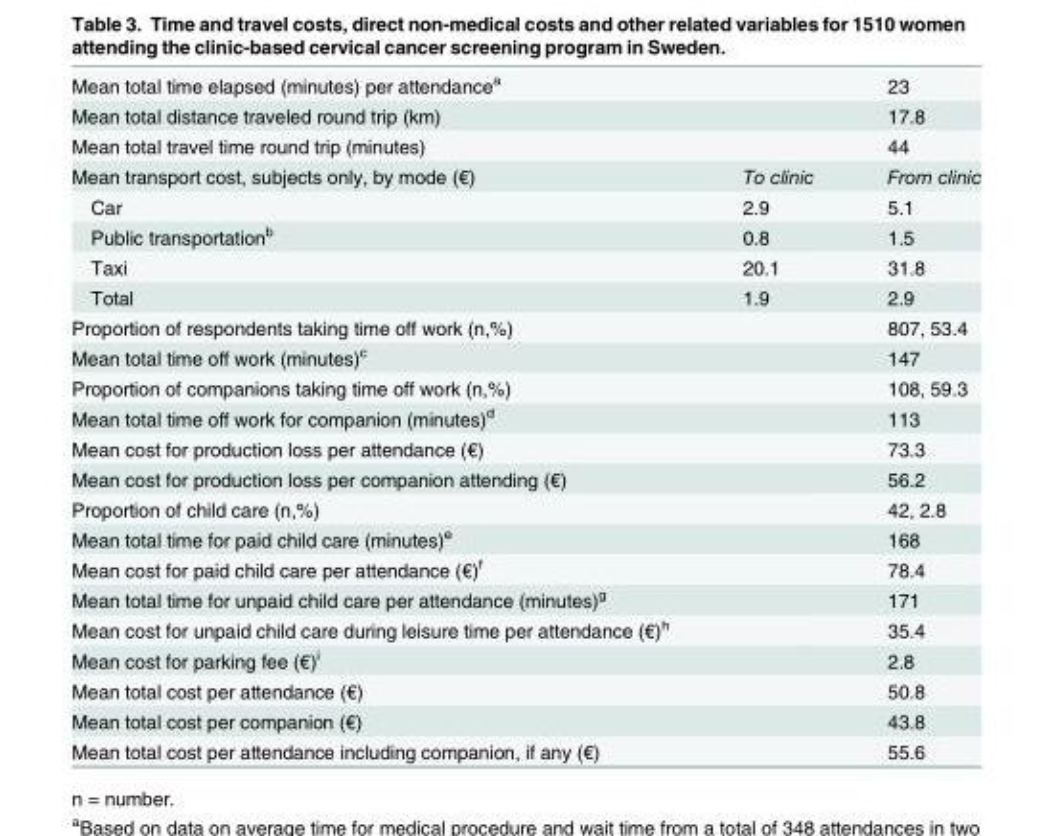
<table><tbody><tr><td>Mean total time elapsed (minutes) per attendance<sup>a</sup></td><td></td><td>23</td></tr><tr><td>Mean total distance traveled round trip (km)</td><td></td><td>17.8</td></tr><tr><td>Mean total travel time round trip (minutes)</td><td></td><td>44</td></tr><tr><td>Mean transport cost, subjects only, by mode (€)</td><td>To clinic</td><td>From clinic</td></tr><tr><td>Car</td><td>2.9</td><td>5.1</td></tr><tr><td>Public transportation<sup>b</sup></td><td>0.8</td><td>1.5</td></tr><tr><td>Taxi</td><td>20.1</td><td>31.8</td></tr><tr><td>Total</td><td>1.9</td><td>2.9</td></tr><tr><td>Proportion of respondents taking time off work (n,%)</td><td></td><td>807, 53.4</td></tr><tr><td>Mean total time off work (minutes)<sup>c</sup></td><td></td><td>147</td></tr><tr><td>Proportion of companions taking time off work (n,%)</td><td></td><td>108, 59.3</td></tr><tr><td>Mean total time off work for companion (minutes)<sup>d</sup></td><td></td><td>113</td></tr><tr><td>Mean cost for production loss per attendance (€)</td><td></td><td>73.3</td></tr><tr><td>Mean cost for production loss per companion attending (€)</td><td></td><td>56.2</td></tr><tr><td>Proportion of child care (n,%)</td><td></td><td>42, 2.8</td></tr><tr><td>Mean total time for paid child care (minutes)<sup>e</sup></td><td></td><td>168</td></tr><tr><td>Mean cost for paid child care per attendance (€)<sup>f</sup></td><td></td><td>78.4</td></tr><tr><td>Mean total time for unpaid child care per attendance (minutes)<sup>g</sup></td><td></td><td>171</td></tr><tr><td>Mean cost for unpaid child care during leisure time per attendance (€)<sup>h</sup></td><td></td><td>35.4</td></tr><tr><td>Mean cost for parking fee (€)<sup>i</sup></td><td></td><td>2.8</td></tr><tr><td>Mean total cost per attendance (€)</td><td></td><td>50.8</td></tr><tr><td>Mean total cost per companion (€)</td><td></td><td>43.8</td></tr><tr><td>Mean total cost per attendance including companion, if any (€)</td><td></td><td>55.6</td></tr></tbody></table>